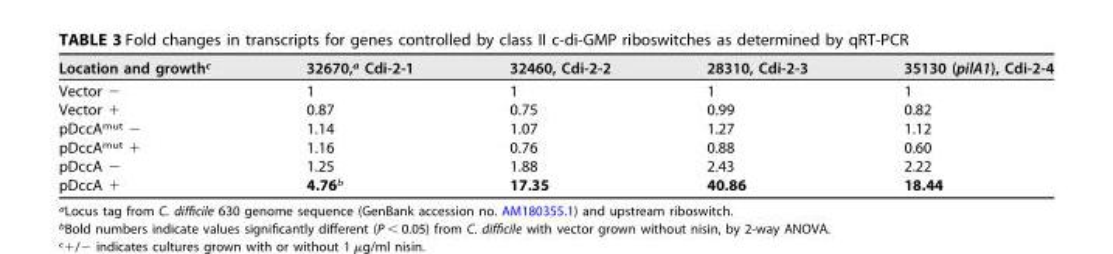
<table><thead><tr><td>Location and growth<sup>c</sup></td><td>32670,<sup>a</sup> Cdi-2-1</td><td>32460, Cdi-2-2</td><td>28310, Cdi-2-3</td><td>35130 (pilA1), Cdi-2-4</td></tr></thead><tbody><tr><td>Vector −</td><td>1</td><td>1</td><td>1</td><td>1</td></tr><tr><td>Vector +</td><td>0.87</td><td>0.75</td><td>0.99</td><td>0.82</td></tr><tr><td>pDccA<sup>mut</sup> −</td><td>1.14</td><td>1.07</td><td>1.27</td><td>1.12</td></tr><tr><td>pDccA<sup>mut</sup> +</td><td>1.16</td><td>0.76</td><td>0.88</td><td>0.60</td></tr><tr><td>pDccA −</td><td>1.25</td><td>1.88</td><td>2.43</td><td>2.22</td></tr><tr><td>pDccA +</td><td>4.76<sup>b</sup></td><td>17.35</td><td>40.86</td><td>18.44</td></tr></tbody></table>